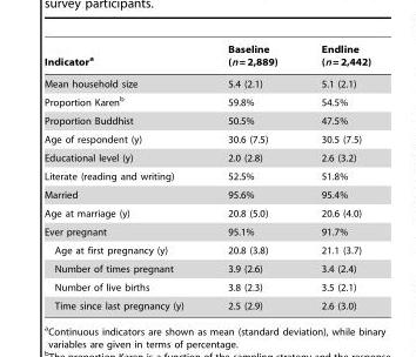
<table><thead><tr><td>Indicator<sup>a</sup></td><td>Baseline (n = 2,889)</td><td>Endline (n = 2,442)</td></tr></thead><tbody><tr><td>Mean household size</td><td>5.4 (2.1)</td><td>5.1 (2.1)</td></tr><tr><td>Proportion Karen<sup>b</sup></td><td>59.8%</td><td>54.5%</td></tr><tr><td>Proportion Buddhist</td><td>50.5%</td><td>47.5%</td></tr><tr><td>Age of respondent (y)</td><td>30.6 (7.5)</td><td>30.5 (7.5)</td></tr><tr><td>Educational level (y)</td><td>2.0 (2.8)</td><td>2.6 (3.2)</td></tr><tr><td>Literate (reading and writing)</td><td>52.5%</td><td>51.8%</td></tr><tr><td>Married</td><td>95.6%</td><td>95.4%</td></tr><tr><td>Age at marriage (y)</td><td>20.8 (5.0)</td><td>20.6 (4.0)</td></tr><tr><td>Ever pregnant</td><td>95.1%</td><td>91.7%</td></tr><tr><td>Age at first pregnancy (y)</td><td>20.8 (3.8)</td><td>21.1 (3.7)</td></tr><tr><td>Number of times pregnant</td><td>3.9 (2.6)</td><td>3.4 (2.4)</td></tr><tr><td>Number of live births</td><td>3.8 (2.3)</td><td>3.5 (2.1)</td></tr><tr><td>Time since last pregnancy (y)</td><td>2.5 (2.9)</td><td>2.6 (3.0)</td></tr></tbody></table>